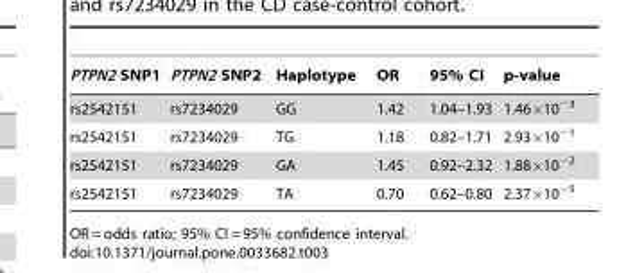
<table><thead><tr><td>PTPN2 SNP1</td><td>PTPN2 SNP2</td><td>Haplotype</td><td>OR</td><td>95% CI</td><td>p-value</td></tr></thead><tbody><tr><td>rs2542151</td><td>rs7234029</td><td>GG</td><td>1.42</td><td>1.04–1.93</td><td>1.46×10<sup>−3</sup></td></tr><tr><td>rs2542151</td><td>rs7234029</td><td>TG</td><td>1.18</td><td>0.82–1.71</td><td>2.93×10<sup>−1</sup></td></tr><tr><td>rs2542151</td><td>rs7234029</td><td>GA</td><td>1.45</td><td>0.92–2.32</td><td>1.88×10<sup>−2</sup></td></tr><tr><td>rs2542151</td><td>rs7234029</td><td>TA</td><td>0.70</td><td>0.62–0.80</td><td>2.37×10<sup>−5</sup></td></tr></tbody></table>